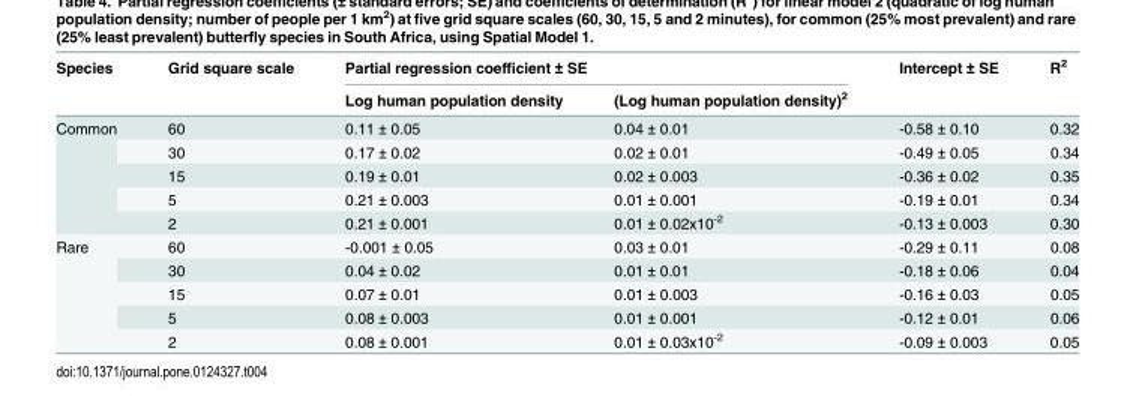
<table><thead><tr><td rowspan="2">Species</td><td rowspan="2">Grid square scale</td><td colspan="2">Partial regression coefficient ± SE</td><td rowspan="2">Intercept ± SE</td><td rowspan="2">R<sup>2</sup></td></tr><tr><td>Log human population density</td><td>(Log human population density)<sup>2</sup></td></tr></thead><tbody><tr><td rowspan="5">Common</td><td>60</td><td>0.11 ± 0.05</td><td>0.04 ± 0.01</td><td>-0.58 ± 0.10</td><td>0.32</td></tr><tr><td>30</td><td>0.17 ± 0.02</td><td>0.02 ± 0.01</td><td>-0.49 ± 0.05</td><td>0.34</td></tr><tr><td>15</td><td>0.19 ± 0.01</td><td>0.02 ± 0.003</td><td>-0.36 ± 0.02</td><td>0.35</td></tr><tr><td>5</td><td>0.21 ± 0.003</td><td>0.01 ± 0.001</td><td>-0.19 ± 0.01</td><td>0.34</td></tr><tr><td>2</td><td>0.21 ± 0.001</td><td>0.01 ± 0.02x10<sup>-2</sup></td><td>-0.13 ± 0.003</td><td>0.30</td></tr><tr><td rowspan="5">Rare</td><td>60</td><td>-0.001 ± 0.05</td><td>0.03 ± 0.01</td><td>-0.29 ± 0.11</td><td>0.08</td></tr><tr><td>30</td><td>0.04 ± 0.02</td><td>0.01 ± 0.01</td><td>-0.18 ± 0.06</td><td>0.04</td></tr><tr><td>15</td><td>0.07 ± 0.01</td><td>0.01 ± 0.003</td><td>-0.16 ± 0.03</td><td>0.05</td></tr><tr><td>5</td><td>0.08 ± 0.003</td><td>0.01 ± 0.001</td><td>-0.12 ± 0.01</td><td>0.06</td></tr><tr><td>2</td><td>0.08 ± 0.001</td><td>0.01 ± 0.03x10<sup>-2</sup></td><td>-0.09 ± 0.003</td><td>0.05</td></tr></tbody></table>